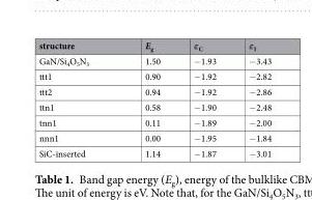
<table><thead><tr><td>structure</td><td>E<sub>g</sub></td><td>ε<sub>C</sub></td><td>ε<sub>I</sub></td></tr></thead><tbody><tr><td>GaN/Si<sub>4</sub>O<sub>5</sub>N<sub>3</sub></td><td>1.50</td><td>−1.93</td><td>−3.43</td></tr><tr><td>ttt1</td><td>0.90</td><td>−1.92</td><td>−2.82</td></tr><tr><td>ttt2</td><td>0.94</td><td>−1.92</td><td>−2.86</td></tr><tr><td>ttn1</td><td>0.58</td><td>−1.90</td><td>−2.48</td></tr><tr><td>tnn1</td><td>0.11</td><td>−1.89</td><td>−2.00</td></tr><tr><td>nnn1</td><td>0.00</td><td>−1.95</td><td>−1.84</td></tr><tr><td>SiC-inserted</td><td>1.14</td><td>−1.87</td><td>−3.01</td></tr></tbody></table>